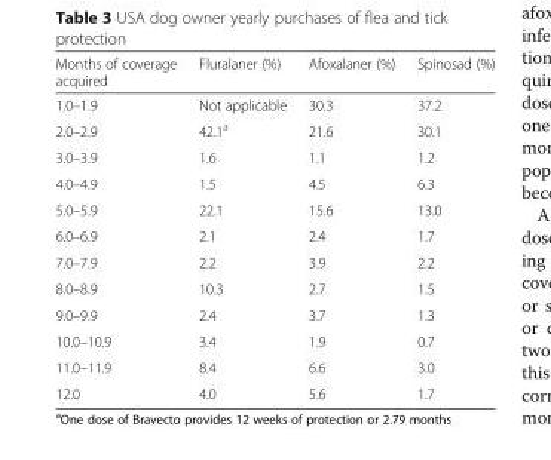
<table><thead><tr><td>Months of coverage acquired</td><td>Fluralaner (%)</td><td>Afoxalaner (%)</td><td>Spinosad (%)</td></tr></thead><tbody><tr><td>1.0–1.9</td><td>Not applicable</td><td>30.3</td><td>37.2</td></tr><tr><td>2.0–2.9</td><td>42.1<sup>a</sup></td><td>21.6</td><td>30.1</td></tr><tr><td>3.0–3.9</td><td>1.6</td><td>1.1</td><td>1.2</td></tr><tr><td>4.0–4.9</td><td>1.5</td><td>4.5</td><td>6.3</td></tr><tr><td>5.0–5.9</td><td>22.1</td><td>15.6</td><td>13.0</td></tr><tr><td>6.0–6.9</td><td>2.1</td><td>2.4</td><td>1.7</td></tr><tr><td>7.0–7.9</td><td>2.2</td><td>3.9</td><td>2.2</td></tr><tr><td>8.0–8.9</td><td>10.3</td><td>2.7</td><td>1.5</td></tr><tr><td>9.0–9.9</td><td>2.4</td><td>3.7</td><td>1.3</td></tr><tr><td>10.0–10.9</td><td>3.4</td><td>1.9</td><td>0.7</td></tr><tr><td>11.0–11.9</td><td>8.4</td><td>6.6</td><td>3.0</td></tr><tr><td>12.0</td><td>4.0</td><td>5.6</td><td>1.7</td></tr></tbody></table>